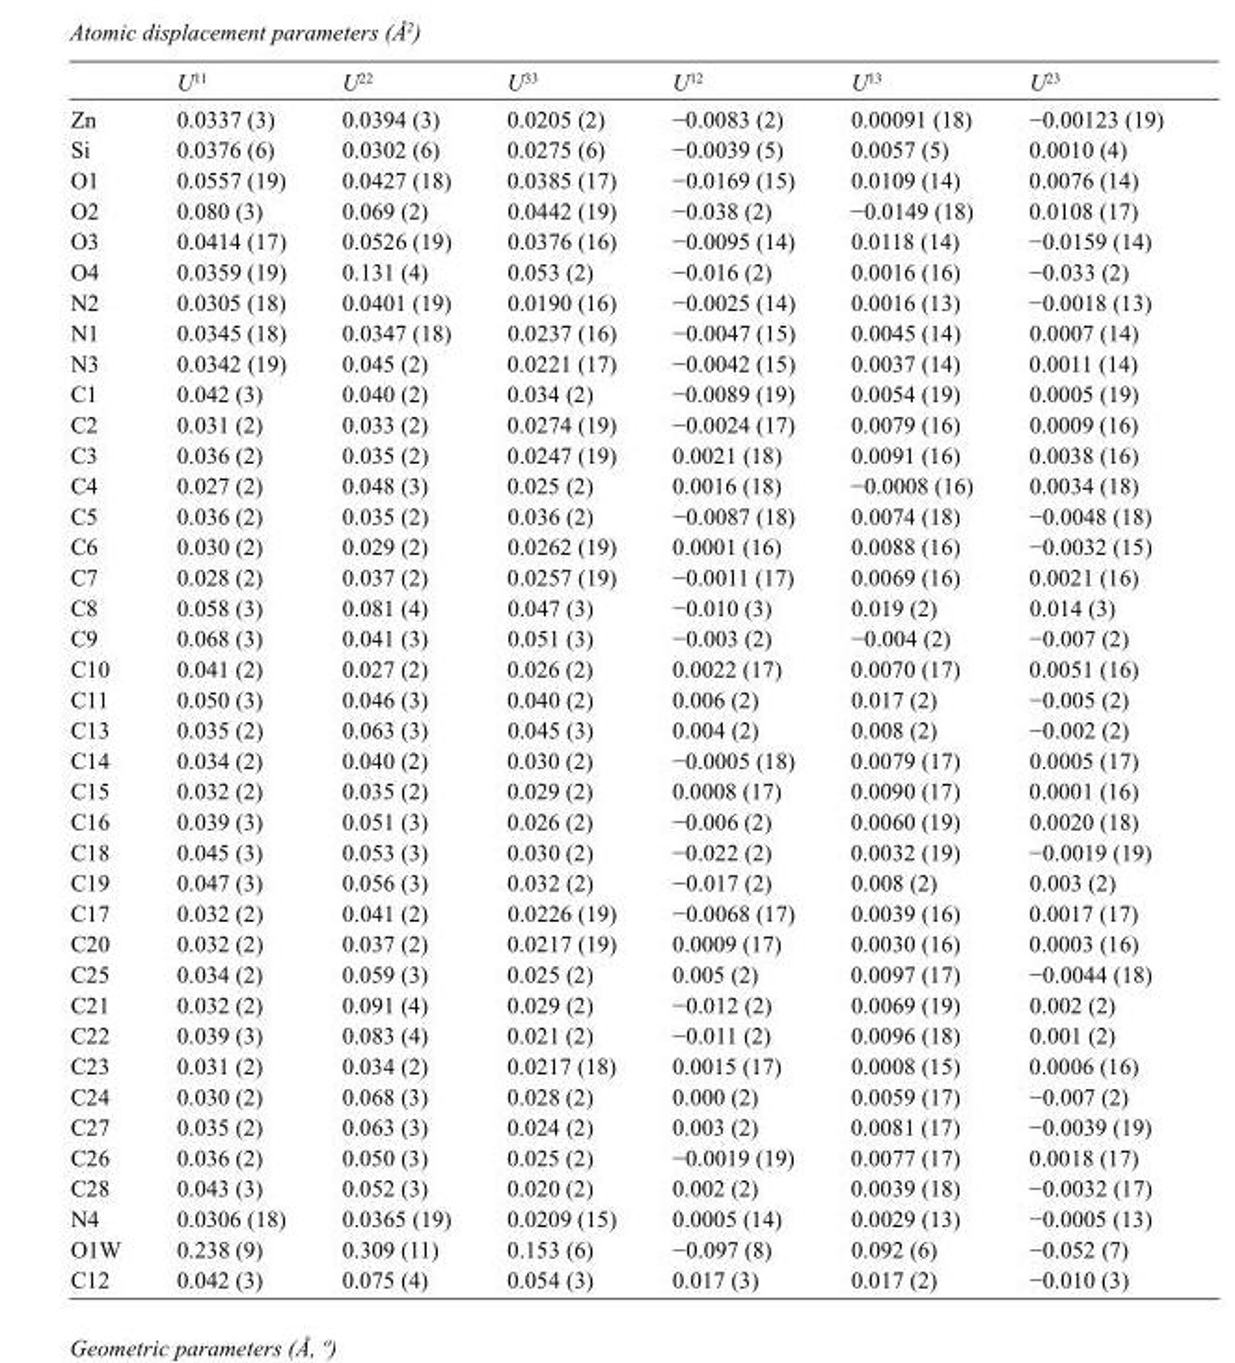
<table><thead><tr><td></td><td>U<sup>11</sup></td><td>U<sup>22</sup></td><td>U<sup>33</sup></td><td>U<sup>12</sup></td><td>U<sup>13</sup></td><td>U<sup>23</sup></td></tr></thead><tbody><tr><td>Zn</td><td>0.0337 (3)</td><td>0.0394 (3)</td><td>0.0205 (2)</td><td>−0.0083 (2)</td><td>0.00091 (18)</td><td>−0.00123 (19)</td></tr><tr><td>Si</td><td>0.0376 (6)</td><td>0.0302 (6)</td><td>0.0275 (6)</td><td>−0.0039 (5)</td><td>0.0057 (5)</td><td>0.0010 (4)</td></tr><tr><td>O1</td><td>0.0557 (19)</td><td>0.0427 (18)</td><td>0.0385 (17)</td><td>−0.0169 (15)</td><td>0.0109 (14)</td><td>0.0076 (14)</td></tr><tr><td>O2</td><td>0.080 (3)</td><td>0.069 (2)</td><td>0.0442 (19)</td><td>−0.038 (2)</td><td>−0.0149 (18)</td><td>0.0108 (17)</td></tr><tr><td>O3</td><td>0.0414 (17)</td><td>0.0526 (19)</td><td>0.0376 (16)</td><td>−0.0095 (14)</td><td>0.0118 (14)</td><td>−0.0159 (14)</td></tr><tr><td>O4</td><td>0.0359 (19)</td><td>0.131 (4)</td><td>0.053 (2)</td><td>−0.016 (2)</td><td>0.0016 (16)</td><td>−0.033 (2)</td></tr><tr><td>N2</td><td>0.0305 (18)</td><td>0.0401 (19)</td><td>0.0190 (16)</td><td>−0.0025 (14)</td><td>0.0016 (13)</td><td>−0.0018 (13)</td></tr><tr><td>N1</td><td>0.0345 (18)</td><td>0.0347 (18)</td><td>0.0237 (16)</td><td>−0.0047 (15)</td><td>0.0045 (14)</td><td>0.0007 (14)</td></tr><tr><td>N3</td><td>0.0342 (19)</td><td>0.045 (2)</td><td>0.0221 (17)</td><td>−0.0042 (15)</td><td>0.0037 (14)</td><td>0.0011 (14)</td></tr><tr><td>C1</td><td>0.042 (3)</td><td>0.040 (2)</td><td>0.034 (2)</td><td>−0.0089 (19)</td><td>0.0054 (19)</td><td>0.0005 (19)</td></tr><tr><td>C2</td><td>0.031 (2)</td><td>0.033 (2)</td><td>0.0274 (19)</td><td>−0.0024 (17)</td><td>0.0079 (16)</td><td>0.0009 (16)</td></tr><tr><td>C3</td><td>0.036 (2)</td><td>0.035 (2)</td><td>0.0247 (19)</td><td>0.0021 (18)</td><td>0.0091 (16)</td><td>0.0038 (16)</td></tr><tr><td>C4</td><td>0.027 (2)</td><td>0.048 (3)</td><td>0.025 (2)</td><td>0.0016 (18)</td><td>−0.0008 (16)</td><td>0.0034 (18)</td></tr><tr><td>C5</td><td>0.036 (2)</td><td>0.035 (2)</td><td>0.036 (2)</td><td>−0.0087 (18)</td><td>0.0074 (18)</td><td>−0.0048 (18)</td></tr><tr><td>C6</td><td>0.030 (2)</td><td>0.029 (2)</td><td>0.0262 (19)</td><td>0.0001 (16)</td><td>0.0088 (16)</td><td>−0.0032 (15)</td></tr><tr><td>C7</td><td>0.028 (2)</td><td>0.037 (2)</td><td>0.0257 (19)</td><td>−0.0011 (17)</td><td>0.0069 (16)</td><td>0.0021 (16)</td></tr><tr><td>C8</td><td>0.058 (3)</td><td>0.081 (4)</td><td>0.047 (3)</td><td>−0.010 (3)</td><td>0.019 (2)</td><td>0.014 (3)</td></tr><tr><td>C9</td><td>0.068 (3)</td><td>0.041 (3)</td><td>0.051 (3)</td><td>−0.003 (2)</td><td>−0.004 (2)</td><td>−0.007 (2)</td></tr><tr><td>C10</td><td>0.041 (2)</td><td>0.027 (2)</td><td>0.026 (2)</td><td>0.0022 (17)</td><td>0.0070 (17)</td><td>0.0051 (16)</td></tr><tr><td>C11</td><td>0.050 (3)</td><td>0.046 (3)</td><td>0.040 (2)</td><td>0.006 (2)</td><td>0.017 (2)</td><td>−0.005 (2)</td></tr><tr><td>C13</td><td>0.035 (2)</td><td>0.063 (3)</td><td>0.045 (3)</td><td>0.004 (2)</td><td>0.008 (2)</td><td>−0.002 (2)</td></tr><tr><td>C14</td><td>0.034 (2)</td><td>0.040 (2)</td><td>0.030 (2)</td><td>−0.0005 (18)</td><td>0.0079 (17)</td><td>0.0005 (17)</td></tr><tr><td>C15</td><td>0.032 (2)</td><td>0.035 (2)</td><td>0.029 (2)</td><td>0.0008 (17)</td><td>0.0090 (17)</td><td>0.0001 (16)</td></tr><tr><td>C16</td><td>0.039 (3)</td><td>0.051 (3)</td><td>0.026 (2)</td><td>−0.006 (2)</td><td>0.0060 (19)</td><td>0.0020 (18)</td></tr><tr><td>C18</td><td>0.045 (3)</td><td>0.053 (3)</td><td>0.030 (2)</td><td>−0.022 (2)</td><td>0.0032 (19)</td><td>−0.0019 (19)</td></tr><tr><td>C19</td><td>0.047 (3)</td><td>0.056 (3)</td><td>0.032 (2)</td><td>−0.017 (2)</td><td>0.008 (2)</td><td>0.003 (2)</td></tr><tr><td>C17</td><td>0.032 (2)</td><td>0.041 (2)</td><td>0.0226 (19)</td><td>−0.0068 (17)</td><td>0.0039 (16)</td><td>0.0017 (17)</td></tr><tr><td>C20</td><td>0.032 (2)</td><td>0.037 (2)</td><td>0.0217 (19)</td><td>0.0009 (17)</td><td>0.0030 (16)</td><td>0.0003 (16)</td></tr><tr><td>C25</td><td>0.034 (2)</td><td>0.059 (3)</td><td>0.025 (2)</td><td>0.005 (2)</td><td>0.0097 (17)</td><td>−0.0044 (18)</td></tr><tr><td>C21</td><td>0.032 (2)</td><td>0.091 (4)</td><td>0.029 (2)</td><td>−0.012 (2)</td><td>0.0069 (19)</td><td>0.002 (2)</td></tr><tr><td>C22</td><td>0.039 (3)</td><td>0.083 (4)</td><td>0.021 (2)</td><td>−0.011 (2)</td><td>0.0096 (18)</td><td>0.001 (2)</td></tr><tr><td>C23</td><td>0.031 (2)</td><td>0.034 (2)</td><td>0.0217 (18)</td><td>0.0015 (17)</td><td>0.0008 (15)</td><td>0.0006 (16)</td></tr><tr><td>C24</td><td>0.030 (2)</td><td>0.068 (3)</td><td>0.028 (2)</td><td>0.000 (2)</td><td>0.0059 (17)</td><td>−0.007 (2)</td></tr><tr><td>C27</td><td>0.035 (2)</td><td>0.063 (3)</td><td>0.024 (2)</td><td>0.003 (2)</td><td>0.0081 (17)</td><td>−0.0039 (19)</td></tr><tr><td>C26</td><td>0.036 (2)</td><td>0.050 (3)</td><td>0.025 (2)</td><td>−0.0019 (19)</td><td>0.0077 (17)</td><td>0.0018 (17)</td></tr><tr><td>C28</td><td>0.043 (3)</td><td>0.052 (3)</td><td>0.020 (2)</td><td>0.002 (2)</td><td>0.0039 (18)</td><td>−0.0032 (17)</td></tr><tr><td>N4</td><td>0.0306 (18)</td><td>0.0365 (19)</td><td>0.0209 (15)</td><td>0.0005 (14)</td><td>0.0029 (13)</td><td>−0.0005 (13)</td></tr><tr><td>O1W</td><td>0.238 (9)</td><td>0.309 (11)</td><td>0.153 (6)</td><td>−0.097 (8)</td><td>0.092 (6)</td><td>−0.052 (7)</td></tr><tr><td>C12</td><td>0.042 (3)</td><td>0.075 (4)</td><td>0.054 (3)</td><td>0.017 (3)</td><td>0.017 (2)</td><td>−0.010 (3)</td></tr></tbody></table>